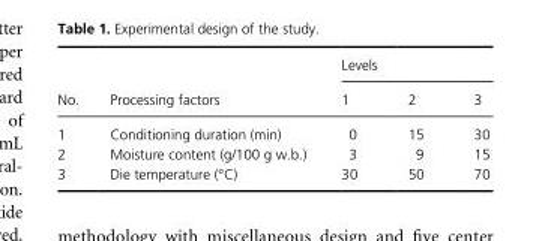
<table><thead><tr><td rowspan="2">No.</td><td rowspan="2">Processing factors</td><td colspan="3">Levels</td></tr><tr><td>1</td><td>2</td><td>3</td></tr></thead><tbody><tr><td>1</td><td>Conditioning duration (min)</td><td>0</td><td>15</td><td>30</td></tr><tr><td>2</td><td>Moisture content (g/100 g w.b.)</td><td>3</td><td>9</td><td>15</td></tr><tr><td>3</td><td>Die temperature (°C)</td><td>30</td><td>50</td><td>70</td></tr></tbody></table>